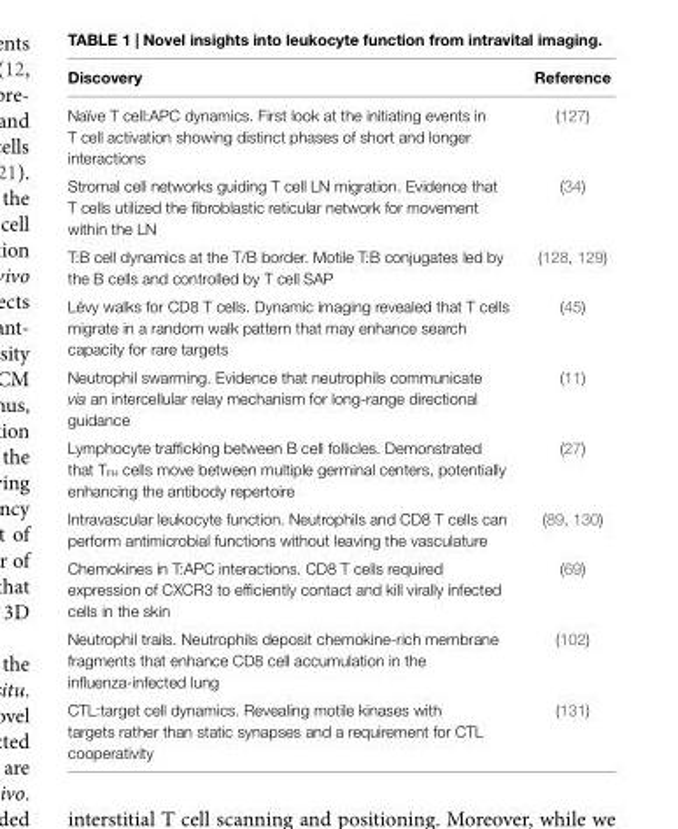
<table><thead><tr><td>Discovery</td><td>Reference</td></tr></thead><tbody><tr><td>Naïve T cell:APC dynamics. First look at the initiating events in T cell activation showing distinct phases of short and longer interactions</td><td>(127)</td></tr><tr><td>Stromal cell networks guiding T cell LN migration. Evidence that T cells utilized the fibroblastic reticular network for movement within the LN</td><td>(34)</td></tr><tr><td>T:B cell dynamics at the T/B border. Motile T:B conjugates led by the B cells and controlled by T cell SAP</td><td>(128, 129)</td></tr><tr><td>Lévy walks for CD8 T cells. Dynamic imaging revealed that T cells migrate in a random walk pattern that may enhance search capacity for rare targets</td><td>(45)</td></tr><tr><td>Neutrophil swarming. Evidence that neutrophils communicate via an intercellular relay mechanism for long-range directional guidance</td><td>(11)</td></tr><tr><td>Lymphocyte trafficking between B cell follicles. Demonstrated that T<sub>FH</sub> cells move between multiple germinal centers, potentially enhancing the antibody repertoire</td><td>(27)</td></tr><tr><td>Intravascular leukocyte function. Neutrophils and CD8 T cells can perform antimicrobial functions without leaving the vasculature</td><td>(89, 130)</td></tr><tr><td>Chemokines in T:APC interactions. CD8 T cells required expression of CXCR3 to efficiently contact and kill virally infected cells in the skin</td><td>(69)</td></tr><tr><td>Neutrophil trails. Neutrophils deposit chemokine-rich membrane fragments that enhance CD8 cell accumulation in the influenza-infected lung</td><td>(102)</td></tr><tr><td>CTL:target cell dynamics. Revealing motile kinases with targets rather than static synapses and a requirement for CTL cooperativity</td><td>(131)</td></tr></tbody></table>